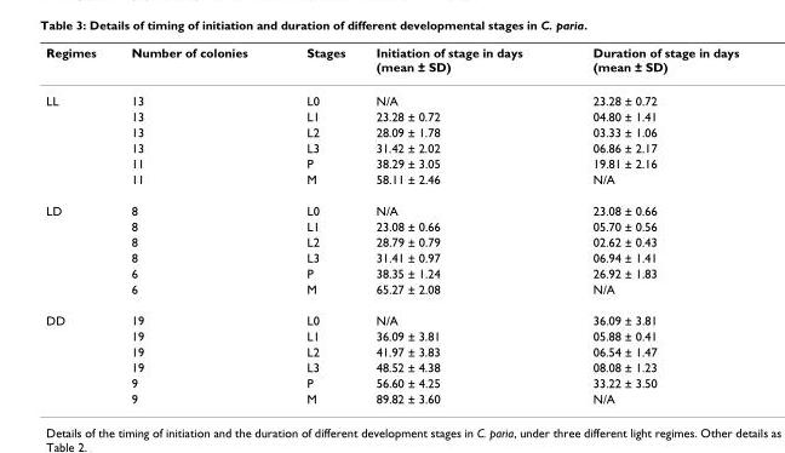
<table><thead><tr><td>Regimes</td><td>Number of colonies</td><td>Stages</td><td>Initiation of stage in days (mean ± SD)</td><td>Duration of stage in days (mean ± SD)</td></tr></thead><tbody><tr><td rowspan="6">LL</td><td>13</td><td>L0</td><td>N/A</td><td>23.28 ± 0.72</td></tr><tr><td>13</td><td>L1</td><td>23.28 ± 0.72</td><td>04.80 ± 1.41</td></tr><tr><td>13</td><td>L2</td><td>28.09 ± 1.78</td><td>03.33 ± 1.06</td></tr><tr><td>13</td><td>L3</td><td>31.42 ± 2.02</td><td>06.86 ± 2.17</td></tr><tr><td>11</td><td>P</td><td>38.29 ± 3.05</td><td>19.81 ± 2.16</td></tr><tr><td>11</td><td>M</td><td>58.11 ± 2.46</td><td>N/A</td></tr><tr><td rowspan="6">LD</td><td>8</td><td>L0</td><td>N/A</td><td>23.08 ± 0.66</td></tr><tr><td>8</td><td>L1</td><td>23.08 ± 0.66</td><td>05.70 ± 0.56</td></tr><tr><td>8</td><td>L2</td><td>28.79 ± 0.79</td><td>02.62 ± 0.43</td></tr><tr><td>8</td><td>L3</td><td>31.41 ± 0.97</td><td>06.94 ± 1.41</td></tr><tr><td>6</td><td>P</td><td>38.35 ± 1.24</td><td>26.92 ± 1.83</td></tr><tr><td>6</td><td>M</td><td>65.27 ± 2.08</td><td>N/A</td></tr><tr><td rowspan="6">DD</td><td>19</td><td>L0</td><td>N/A</td><td>36.09 ± 3.81</td></tr><tr><td>19</td><td>L1</td><td>36.09 ± 3.81</td><td>05.88 ± 0.41</td></tr><tr><td>19</td><td>L2</td><td>41.97 ± 3.83</td><td>06.54 ± 1.47</td></tr><tr><td>19</td><td>L3</td><td>48.52 ± 4.38</td><td>08.08 ± 1.23</td></tr><tr><td>9</td><td>P</td><td>56.60 ± 4.25</td><td>33.22 ± 3.50</td></tr><tr><td>9</td><td>M</td><td>89.82 ± 3.60</td><td>N/A</td></tr></tbody></table>